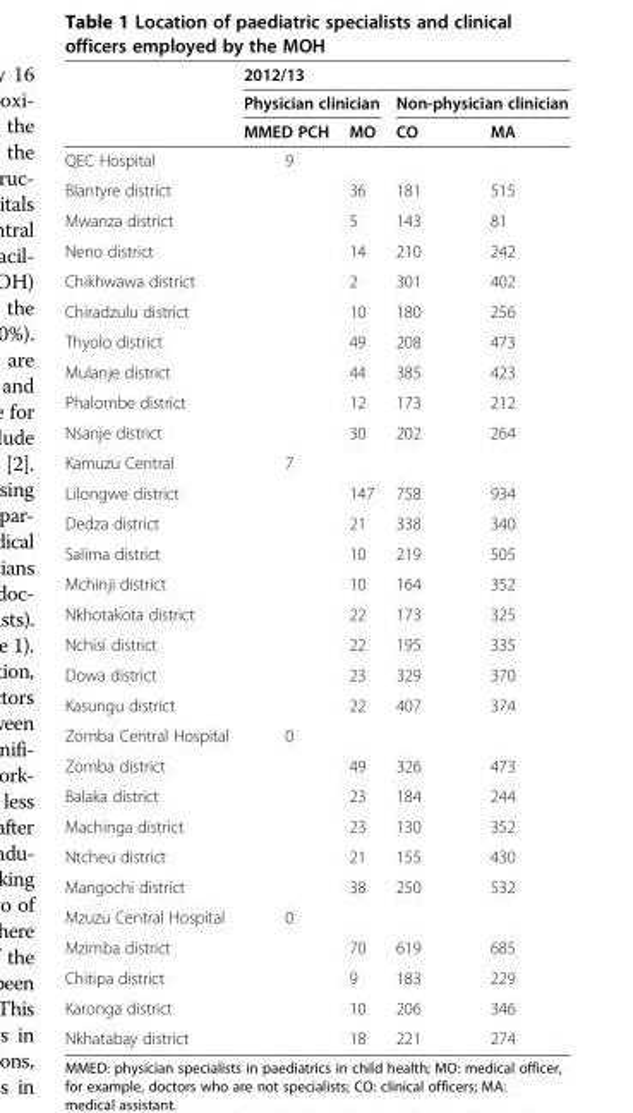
<table><thead><tr><td rowspan="3"></td><td colspan="4">2012/13</td></tr><tr><td colspan="2">Physician clinician</td><td colspan="2">Non-physician clinician</td></tr><tr><td>MMED PCH</td><td>MO</td><td>CO</td><td>MA</td></tr></thead><tbody><tr><td>QEC Hospital</td><td>9</td><td></td><td></td><td></td></tr><tr><td>Blantyre district</td><td></td><td>36</td><td>181</td><td>515</td></tr><tr><td>Mwanza district</td><td></td><td>5</td><td>143</td><td>81</td></tr><tr><td>Neno district</td><td></td><td>14</td><td>210</td><td>242</td></tr><tr><td>Chikhwawa district</td><td></td><td>2</td><td>301</td><td>402</td></tr><tr><td>Chiradzulu district</td><td></td><td>10</td><td>180</td><td>256</td></tr><tr><td>Thyolo district</td><td></td><td>49</td><td>208</td><td>473</td></tr><tr><td>Mulanje district</td><td></td><td>44</td><td>385</td><td>423</td></tr><tr><td>Phalombe district</td><td></td><td>12</td><td>173</td><td>212</td></tr><tr><td>Nsanje district</td><td></td><td>30</td><td>202</td><td>264</td></tr><tr><td>Kamuzu Central</td><td>7</td><td></td><td></td><td></td></tr><tr><td>Lilongwe district</td><td></td><td>147</td><td>758</td><td>934</td></tr><tr><td>Dedza district</td><td></td><td>21</td><td>338</td><td>340</td></tr><tr><td>Salima district</td><td></td><td>10</td><td>219</td><td>505</td></tr><tr><td>Mchinji district</td><td></td><td>10</td><td>164</td><td>352</td></tr><tr><td>Nkhotakota district</td><td></td><td>22</td><td>173</td><td>325</td></tr><tr><td>Nchisi district</td><td></td><td>22</td><td>195</td><td>335</td></tr><tr><td>Dowa district</td><td></td><td>23</td><td>329</td><td>370</td></tr><tr><td>Kasungu district</td><td></td><td>22</td><td>407</td><td>374</td></tr><tr><td>Zomba Central Hospital</td><td>0</td><td></td><td></td><td></td></tr><tr><td>Zomba district</td><td></td><td>49</td><td>326</td><td>473</td></tr><tr><td>Balaka district</td><td></td><td>23</td><td>184</td><td>244</td></tr><tr><td>Machinga district</td><td></td><td>23</td><td>130</td><td>352</td></tr><tr><td>Ntcheu district</td><td></td><td>21</td><td>155</td><td>430</td></tr><tr><td>Mangochi district</td><td></td><td>38</td><td>250</td><td>532</td></tr><tr><td>Mzuzu Central Hospital</td><td>0</td><td></td><td></td><td></td></tr><tr><td>Mzimba district</td><td></td><td>70</td><td>619</td><td>685</td></tr><tr><td>Chitipa district</td><td></td><td>9</td><td>183</td><td>229</td></tr><tr><td>Karonga district</td><td></td><td>10</td><td>206</td><td>346</td></tr><tr><td>Nkhatabay district</td><td></td><td>18</td><td>221</td><td>274</td></tr></tbody></table>